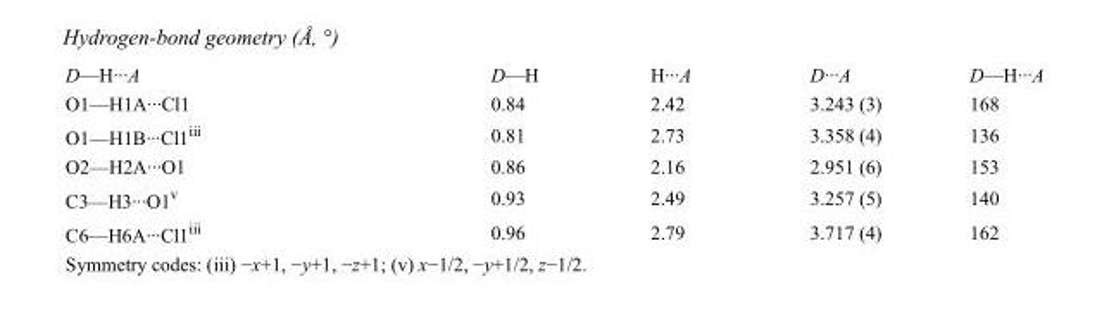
<table><tbody><tr><td>D—H···A</td><td>D—H</td><td>H···A</td><td>D···A</td><td>D—H···A</td></tr><tr><td>O1—H1A···Cl1</td><td>0.84</td><td>2.42</td><td>3.243 (3)</td><td>168</td></tr><tr><td>O1—H1B···Cl1<sup>iii</sup></td><td>0.81</td><td>2.73</td><td>3.358 (4)</td><td>136</td></tr><tr><td>O2—H2A···O1</td><td>0.86</td><td>2.16</td><td>2.951 (6)</td><td>153</td></tr><tr><td>C3—H3···O1<sup>v</sup></td><td>0.93</td><td>2.49</td><td>3.257 (5)</td><td>140</td></tr><tr><td>C6—H6A···Cl1<sup>iii</sup></td><td>0.96</td><td>2.79</td><td>3.717 (4)</td><td>162</td></tr></tbody></table>